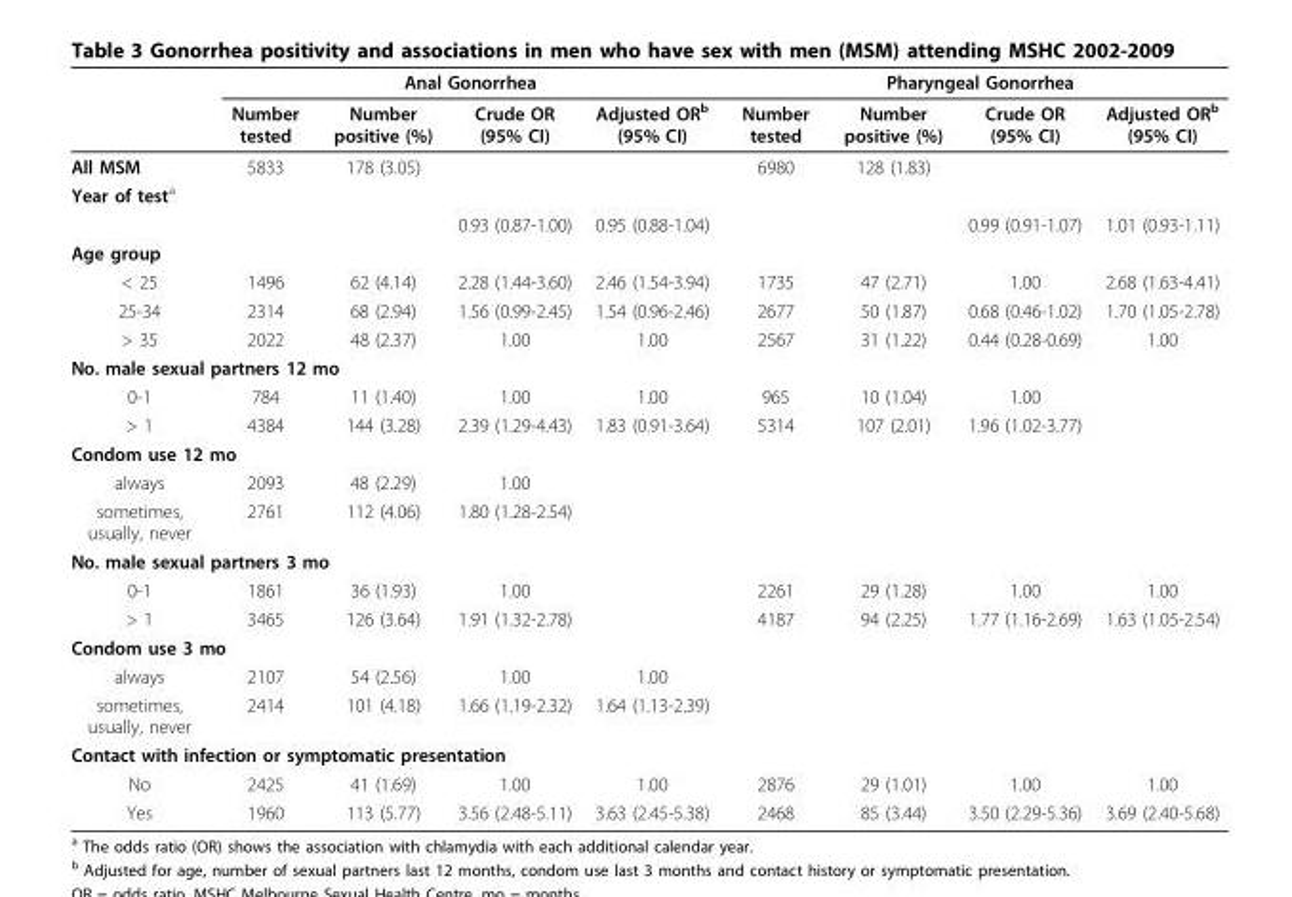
<table><thead><tr><td rowspan="2"></td><td colspan="4">Anal Gonorrhea</td><td colspan="4">Pharyngeal Gonorrhea</td></tr><tr><td>Number tested</td><td>Number positive (%)</td><td>Crude OR (95% CI)</td><td>Adjusted OR<sup>b</sup> (95% CI)</td><td>Number tested</td><td>Number positive (%)</td><td>Crude OR (95% CI)</td><td>Adjusted OR<sup>b</sup> (95% CI)</td></tr></thead><tbody><tr><td>All MSM</td><td>5833</td><td>178 (3.05)</td><td></td><td></td><td>6980</td><td>128 (1.83)</td><td></td><td></td></tr><tr><td colspan="9">Year of test<sup>a</sup></td></tr><tr><td></td><td></td><td></td><td>0.93 (0.87-1.00)</td><td>0.95 (0.88-1.04)</td><td></td><td></td><td>0.99 (0.91-1.07)</td><td>1.01 (0.93-1.11)</td></tr><tr><td colspan="9">Age group</td></tr><tr><td>&lt; 25</td><td>1496</td><td>62 (4.14)</td><td>2.28 (1.44-3.60)</td><td>2.46 (1.54-3.94)</td><td>1735</td><td>47 (2.71)</td><td>1.00</td><td>2.68 (1.63-4.41)</td></tr><tr><td>25-34</td><td>2314</td><td>68 (2.94)</td><td>1.56 (0.99-2.45)</td><td>1.54 (0.96-2.46)</td><td>2677</td><td>50 (1.87)</td><td>0.68 (0.46-1.02)</td><td>1.70 (1.05-2.78)</td></tr><tr><td>&gt; 35</td><td>2022</td><td>48 (2.37)</td><td>1.00</td><td>1.00</td><td>2567</td><td>31 (1.22)</td><td>0.44 (0.28-0.69)</td><td>1.00</td></tr><tr><td colspan="9">No. male sexual partners 12 mo</td></tr><tr><td>0-1</td><td>784</td><td>11 (1.40)</td><td>1.00</td><td>1.00</td><td>965</td><td>10 (1.04)</td><td>1.00</td><td></td></tr><tr><td>&gt; 1</td><td>4384</td><td>144 (3.28)</td><td>2.39 (1.29-4.43)</td><td>1.83 (0.91-3.64)</td><td>5314</td><td>107 (2.01)</td><td>1.96 (1.02-3.77)</td><td></td></tr><tr><td colspan="9">Condom use 12 mo</td></tr><tr><td>always</td><td>2093</td><td>48 (2.29)</td><td>1.00</td><td></td><td></td><td></td><td></td><td></td></tr><tr><td>sometimes, usually, never</td><td>2761</td><td>112 (4.06)</td><td>1.80 (1.28-2.54)</td><td></td><td></td><td></td><td></td><td></td></tr><tr><td colspan="9">No. male sexual partners 3 mo</td></tr><tr><td>0-1</td><td>1861</td><td>36 (1.93)</td><td>1.00</td><td></td><td>2261</td><td>29 (1.28)</td><td>1.00</td><td>1.00</td></tr><tr><td>&gt; 1</td><td>3465</td><td>126 (3.64)</td><td>1.91 (1.32-2.78)</td><td></td><td>4187</td><td>94 (2.25)</td><td>1.77 (1.16-2.69)</td><td>1.63 (1.05-2.54)</td></tr><tr><td colspan="9">Condom use 3 mo</td></tr><tr><td>always</td><td>2107</td><td>54 (2.56)</td><td>1.00</td><td>1.00</td><td></td><td></td><td></td><td></td></tr><tr><td>sometimes, usually, never</td><td>2414</td><td>101 (4.18)</td><td>1.66 (1.19-2.32)</td><td>1.64 (1.13-2.39)</td><td></td><td></td><td></td><td></td></tr><tr><td colspan="9">Contact with infection or symptomatic presentation</td></tr><tr><td>No</td><td>2425</td><td>41 (1.69)</td><td>1.00</td><td>1.00</td><td>2876</td><td>29 (1.01)</td><td>1.00</td><td>1.00</td></tr><tr><td>Yes</td><td>1960</td><td>113 (5.77)</td><td>3.56 (2.48-5.11)</td><td>3.63 (2.45-5.38)</td><td>2468</td><td>85 (3.44)</td><td>3.50 (2.29-5.36)</td><td>3.69 (2.40-5.68)</td></tr></tbody></table>